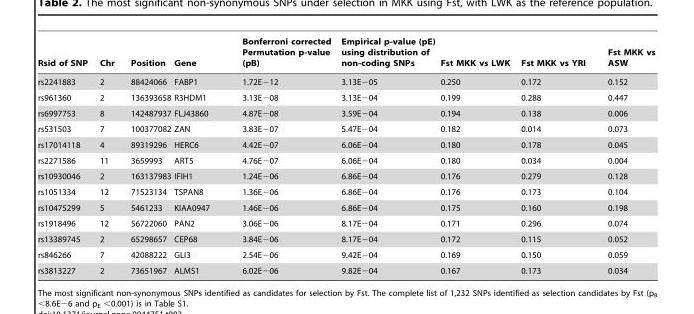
<table><thead><tr><td>Rsid of SNP</td><td>Chr</td><td>Position</td><td>Gene</td><td>Bonferroni corrected Permutation p-value (pB)</td><td>Empirical p-value (pE) using distribution of non-coding SNPs</td><td>Fst MKK vs LWK</td><td>Fst MKK vs YRI</td><td>Fst MKK vs ASW</td></tr></thead><tbody><tr><td>rs2241883</td><td>2</td><td>88424066</td><td>FABP1</td><td>1.72E−12</td><td>3.13E−05</td><td>0.250</td><td>0.172</td><td>0.152</td></tr><tr><td>rs961360</td><td>2</td><td>136393658</td><td>R3HDM1</td><td>3.13E−08</td><td>3.13E−04</td><td>0.199</td><td>0.288</td><td>0.447</td></tr><tr><td>rs6997753</td><td>8</td><td>142487937</td><td>FLJ43860</td><td>4.87E−08</td><td>3.59E−04</td><td>0.194</td><td>0.138</td><td>0.006</td></tr><tr><td>rs531503</td><td>7</td><td>100377082</td><td>ZAN</td><td>3.83E−07</td><td>5.47E−04</td><td>0.182</td><td>0.014</td><td>0.073</td></tr><tr><td>rs17014118</td><td>4</td><td>89319296</td><td>HERC6</td><td>4.42E−07</td><td>6.06E−04</td><td>0.180</td><td>0.178</td><td>0.045</td></tr><tr><td>rs2271586</td><td>11</td><td>3659993</td><td>ART5</td><td>4.76E−07</td><td>6.06E−04</td><td>0.180</td><td>0.034</td><td>0.004</td></tr><tr><td>rs10930046</td><td>2</td><td>163137983</td><td>IFIH1</td><td>1.24E−06</td><td>6.86E−04</td><td>0.176</td><td>0.279</td><td>0.128</td></tr><tr><td>rs1051334</td><td>12</td><td>71523134</td><td>TSPAN8</td><td>1.36E−06</td><td>6.86E−04</td><td>0.176</td><td>0.173</td><td>0.104</td></tr><tr><td>rs10475299</td><td>5</td><td>5461233</td><td>KIAA0947</td><td>1.46E−06</td><td>6.86E−04</td><td>0.175</td><td>0.160</td><td>0.198</td></tr><tr><td>rs1918496</td><td>12</td><td>56722060</td><td>PAN2</td><td>3.06E−06</td><td>8.17E−04</td><td>0.171</td><td>0.296</td><td>0.074</td></tr><tr><td>rs13389745</td><td>2</td><td>65298657</td><td>CEP68</td><td>3.84E−06</td><td>8.17E−04</td><td>0.172</td><td>0.115</td><td>0.052</td></tr><tr><td>rs846266</td><td>7</td><td>42088222</td><td>GLI3</td><td>2.54E−06</td><td>9.42E−04</td><td>0.169</td><td>0.150</td><td>0.059</td></tr><tr><td>rs3813227</td><td>2</td><td>73651967</td><td>ALMS1</td><td>6.02E−06</td><td>9.82E−04</td><td>0.167</td><td>0.173</td><td>0.034</td></tr></tbody></table>